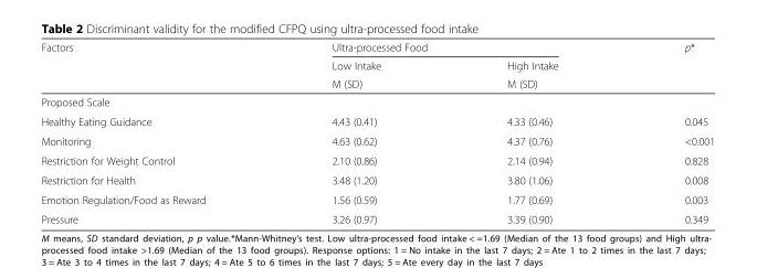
<table><thead><tr><td rowspan="3">Factors</td><td colspan="2">Ultra-processed Food</td><td rowspan="3">p*</td></tr><tr><td rowspan="2">Low Intake M (SD)</td><td rowspan="2">High Intake M (SD)</td></tr><tr></tr></thead><tbody><tr><td colspan="4">Proposed Scale</td></tr><tr><td>Healthy Eating Guidance</td><td>4.43 (0.41)</td><td>4.33 (0.46)</td><td>0.045</td></tr><tr><td>Monitoring</td><td>4.63 (0.62)</td><td>4.37 (0.76)</td><td>&lt;0.001</td></tr><tr><td>Restriction for Weight Control</td><td>2.10 (0.86)</td><td>2.14 (0.94)</td><td>0.828</td></tr><tr><td>Restriction for Health</td><td>3.48 (1.20)</td><td>3.80 (1.06)</td><td>0.008</td></tr><tr><td>Emotion Regulation/Food as Reward</td><td>1.56 (0.59)</td><td>1.77 (0.69)</td><td>0.003</td></tr><tr><td>Pressure</td><td>3.26 (0.97)</td><td>3.39 (0.90)</td><td>0.349</td></tr></tbody></table>